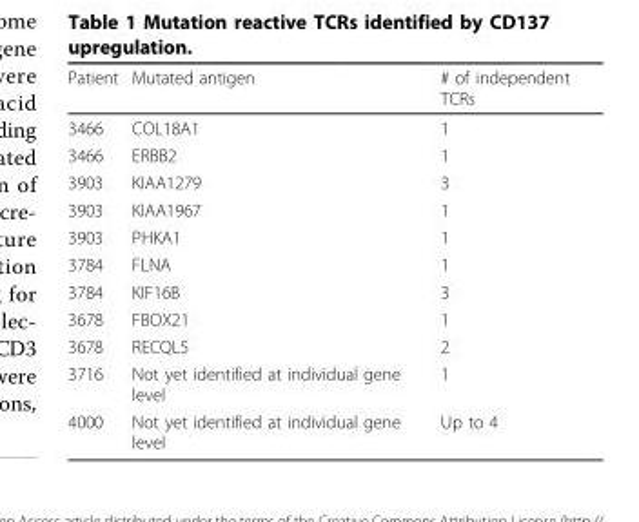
<table><thead><tr><td>Patient</td><td>Mutated antigen</td><td># of independent TCRs</td></tr></thead><tbody><tr><td>3466</td><td>COL18A1</td><td>1</td></tr><tr><td>3466</td><td>ERBB2</td><td>1</td></tr><tr><td>3903</td><td>KIAA1279</td><td>3</td></tr><tr><td>3903</td><td>KIAA1967</td><td>1</td></tr><tr><td>3903</td><td>PHKA1</td><td>1</td></tr><tr><td>3784</td><td>FLNA</td><td>1</td></tr><tr><td>3784</td><td>KIF16B</td><td>3</td></tr><tr><td>3678</td><td>FBOX21</td><td>1</td></tr><tr><td>3678</td><td>RECQL5</td><td>2</td></tr><tr><td>3716</td><td>Not yet identified at individual gene level</td><td>1</td></tr><tr><td>4000</td><td>Not yet identified at individual gene level</td><td>Up to 4</td></tr></tbody></table>